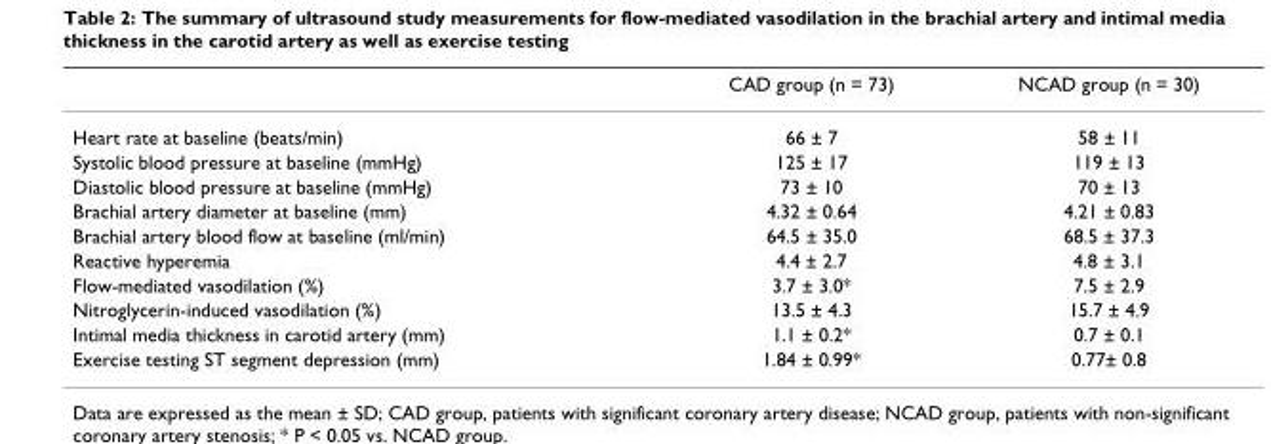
<table><thead><tr><td></td><td>CAD group (n = 73)</td><td>NCAD group (n = 30)</td></tr></thead><tbody><tr><td>Heart rate at baseline (beats/min)</td><td>66 ± 7</td><td>58 ± 11</td></tr><tr><td>Systolic blood pressure at baseline (mmHg)</td><td>125 ± 17</td><td>119 ± 13</td></tr><tr><td>Diastolic blood pressure at baseline (mmHg)</td><td>73 ± 10</td><td>70 ± 13</td></tr><tr><td>Brachial artery diameter at baseline (mm)</td><td>4.32 ± 0.64</td><td>4.21 ± 0.83</td></tr><tr><td>Brachial artery blood flow at baseline (ml/min)</td><td>64.5 ± 35.0</td><td>68.5 ± 37.3</td></tr><tr><td>Reactive hyperemia</td><td>4.4 ± 2.7</td><td>4.8 ± 3.1</td></tr><tr><td>Flow-mediated vasodilation (%)</td><td>3.7 ± 3.0*</td><td>7.5 ± 2.9</td></tr><tr><td>Nitroglycerin-induced vasodilation (%)</td><td>13.5 ± 4.3</td><td>15.7 ± 4.9</td></tr><tr><td>Intimal media thickness in carotid artery (mm)</td><td>1.1 ± 0.2*</td><td>0.7 ± 0.1</td></tr><tr><td>Exercise testing ST segment depression (mm)</td><td>1.84 ± 0.99*</td><td>0.77± 0.8</td></tr></tbody></table>